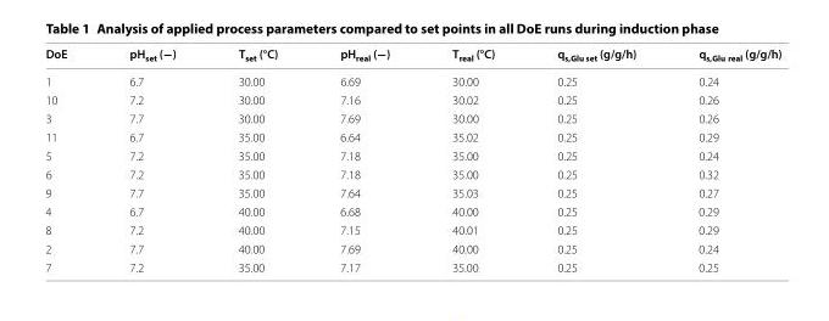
<table><thead><tr><td>DoE</td><td>pH<sub>set</sub> (−)</td><td>T<sub>set</sub> (°C)</td><td>pH<sub>real</sub> (−)</td><td>T<sub>real</sub> (°C)</td><td>q<sub>s,Glu set</sub> (g/g/h)</td><td>q<sub>s,Glu real</sub> (g/g/h)</td></tr></thead><tbody><tr><td>1</td><td>6.7</td><td>30.00</td><td>6.69</td><td>30.00</td><td>0.25</td><td>0.24</td></tr><tr><td>10</td><td>7.2</td><td>30.00</td><td>7.16</td><td>30.02</td><td>0.25</td><td>0.26</td></tr><tr><td>3</td><td>7.7</td><td>30.00</td><td>7.69</td><td>30.00</td><td>0.25</td><td>0.26</td></tr><tr><td>11</td><td>6.7</td><td>35.00</td><td>6.64</td><td>35.02</td><td>0.25</td><td>0.29</td></tr><tr><td>5</td><td>7.2</td><td>35.00</td><td>7.18</td><td>35.00</td><td>0.25</td><td>0.24</td></tr><tr><td>6</td><td>7.2</td><td>35.00</td><td>7.18</td><td>35.00</td><td>0.25</td><td>0.32</td></tr><tr><td>9</td><td>7.7</td><td>35.00</td><td>7.64</td><td>35.03</td><td>0.25</td><td>0.27</td></tr><tr><td>4</td><td>6.7</td><td>40.00</td><td>6.68</td><td>40.00</td><td>0.25</td><td>0.29</td></tr><tr><td>8</td><td>7.2</td><td>40.00</td><td>7.15</td><td>40.01</td><td>0.25</td><td>0.29</td></tr><tr><td>2</td><td>7.7</td><td>40.00</td><td>7.69</td><td>40.00</td><td>0.25</td><td>0.24</td></tr><tr><td>7</td><td>7.2</td><td>35.00</td><td>7.17</td><td>35.00</td><td>0.25</td><td>0.25</td></tr></tbody></table>